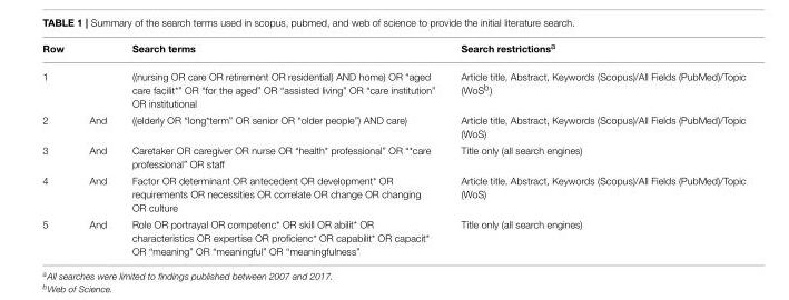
<table><thead><tr><td>Row</td><td></td><td>Search terms</td><td>Search restrictions<sup>a</sup></td></tr></thead><tbody><tr><td>1</td><td></td><td>((nursing OR care OR retirement OR residential) AND home) OR “aged care facilit*” OR “for the aged” OR “assisted living” OR “care institution” OR institutional</td><td>Article title, Abstract, Keywords (Scopus)/All Fields (PubMed)/Topic (WoS<sup>b</sup>)</td></tr><tr><td>2</td><td>And</td><td>((elderly OR “long*term” OR senior OR “older people”) AND care)</td><td>Article title, Abstract, Keywords (Scopus)/All Fields (PubMed)/Topic (WoS)</td></tr><tr><td>3</td><td>And</td><td>Caretaker OR caregiver OR nurse OR “health* professional” OR “*care professional” OR staff</td><td>Title only (all search engines)</td></tr><tr><td>4</td><td>And</td><td>Factor OR determinant OR antecedent OR development* OR requirements OR necessities OR correlate OR change OR changing OR culture</td><td>Article title, Abstract, Keywords (Scopus)/All Fields (PubMed)/Topic (WoS)</td></tr><tr><td>5</td><td>And</td><td>Role OR portrayal OR competenc* OR skill OR abilit* OR characteristics OR expertise OR proficienc* OR capabilit* OR capacit* OR “meaning” OR “meaningful” OR “meaningfulness”</td><td>Title only (all search engines)</td></tr></tbody></table>